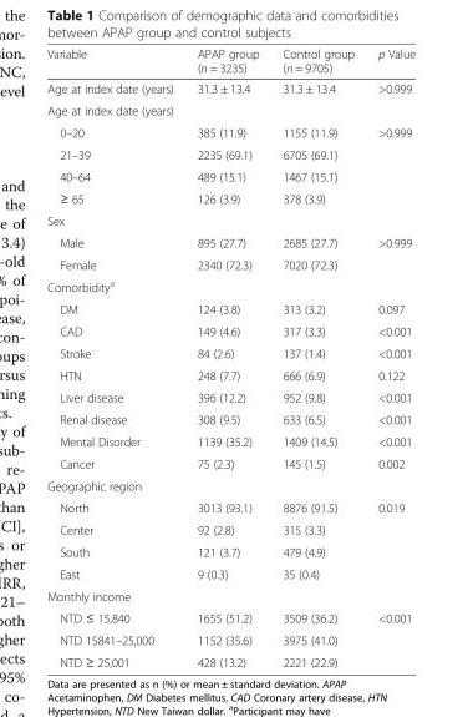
<table><thead><tr><td>Variable</td><td>APAP group (n = 3235)</td><td>Control group (n = 9705)</td><td>p Value</td></tr></thead><tbody><tr><td>Age at index date (years)</td><td>31.3 ± 13.4</td><td>31.3 ± 13.4</td><td>&gt;0.999</td></tr><tr><td colspan="4">Age at index date (years)</td></tr><tr><td>0–20</td><td>385 (11.9)</td><td>1155 (11.9)</td><td>&gt;0.999</td></tr><tr><td>21–39</td><td>2235 (69.1)</td><td>6705 (69.1)</td><td></td></tr><tr><td>40–64</td><td>489 (15.1)</td><td>1467 (15.1)</td><td></td></tr><tr><td>≥ 65</td><td>126 (3.9)</td><td>378 (3.9)</td><td></td></tr><tr><td colspan="4">Sex</td></tr><tr><td>Male</td><td>895 (27.7)</td><td>2685 (27.7)</td><td>&gt;0.999</td></tr><tr><td>Female</td><td>2340 (72.3)</td><td>7020 (72.3)</td><td></td></tr><tr><td colspan="4">Comorbidity<sup>a</sup></td></tr><tr><td>DM</td><td>124 (3.8)</td><td>313 (3.2)</td><td>0.097</td></tr><tr><td>CAD</td><td>149 (4.6)</td><td>317 (3.3)</td><td>&lt;0.001</td></tr><tr><td>Stroke</td><td>84 (2.6)</td><td>137 (1.4)</td><td>&lt;0.001</td></tr><tr><td>HTN</td><td>248 (7.7)</td><td>666 (6.9)</td><td>0.122</td></tr><tr><td>Liver disease</td><td>396 (12.2)</td><td>952 (9.8)</td><td>&lt;0.001</td></tr><tr><td>Renal disease</td><td>308 (9.5)</td><td>633 (6.5)</td><td>&lt;0.001</td></tr><tr><td>Mental Disorder</td><td>1139 (35.2)</td><td>1409 (14.5)</td><td>&lt;0.001</td></tr><tr><td>Cancer</td><td>75 (2.3)</td><td>145 (1.5)</td><td>0.002</td></tr><tr><td colspan="4">Geographic region</td></tr><tr><td>North</td><td>3013 (93.1)</td><td>8876 (91.5)</td><td>0.019</td></tr><tr><td>Center</td><td>92 (2.8)</td><td>315 (3.3)</td><td></td></tr><tr><td>South</td><td>121 (3.7)</td><td>479 (4.9)</td><td></td></tr><tr><td>East</td><td>9 (0.3)</td><td>35 (0.4)</td><td></td></tr><tr><td colspan="4">Monthly income</td></tr><tr><td>NTD ≤ 15,840</td><td>1655 (51.2)</td><td>3509 (36.2)</td><td>&lt;0.001</td></tr><tr><td>NTD 15841–25,000</td><td>1152 (35.6)</td><td>3975 (41.0)</td><td></td></tr><tr><td>NTD ≥ 25,001</td><td>428 (13.2)</td><td>2221 (22.9)</td><td></td></tr></tbody></table>